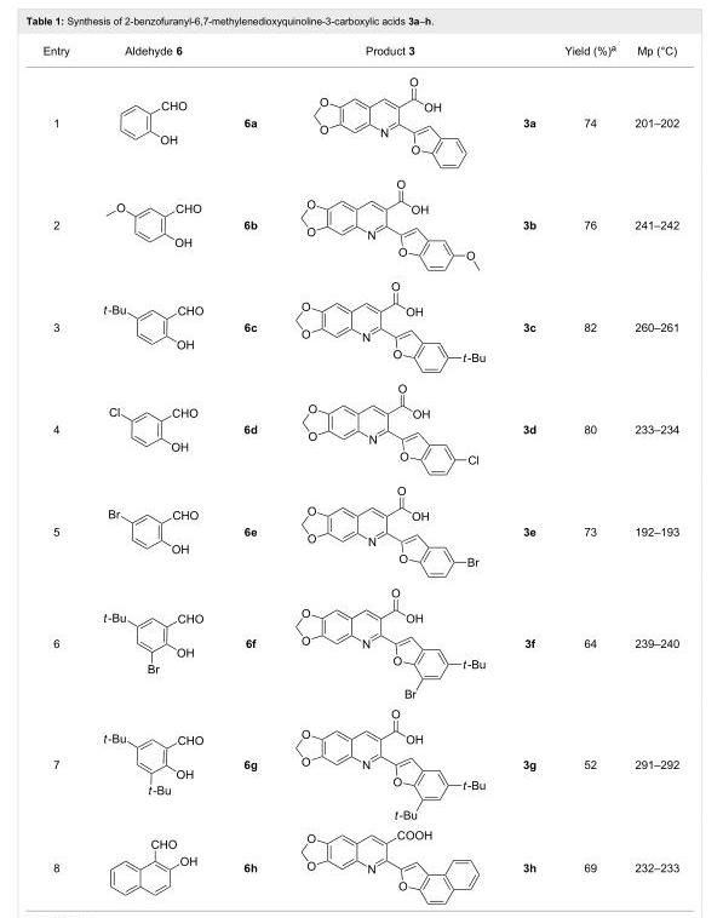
<table><tbody><tr><td>Entry</td><td>Aldehyde 6</td><td></td><td>Product 3</td><td></td><td>Yield (%)<sup>a</sup></td><td>Mp (°C)</td></tr><tr><td>1</td><td></td><td>6a</td><td></td><td>3a</td><td>74</td><td>201–202</td></tr><tr><td>2</td><td></td><td>6b</td><td></td><td>3b</td><td>76</td><td>241–242</td></tr><tr><td>3</td><td></td><td>6c</td><td></td><td>3c</td><td>82</td><td>260–261</td></tr><tr><td>4</td><td></td><td>6d</td><td></td><td>3d</td><td>80</td><td>233–234</td></tr><tr><td>5</td><td></td><td>6e</td><td></td><td>3e</td><td>73</td><td>192–193</td></tr><tr><td>6</td><td></td><td>6f</td><td></td><td>3f</td><td>64</td><td>239–240</td></tr><tr><td>7</td><td></td><td>6g</td><td></td><td>3g</td><td>52</td><td>291–292</td></tr><tr><td>8</td><td></td><td>6h</td><td></td><td>3h</td><td>69</td><td>232–233</td></tr></tbody></table>